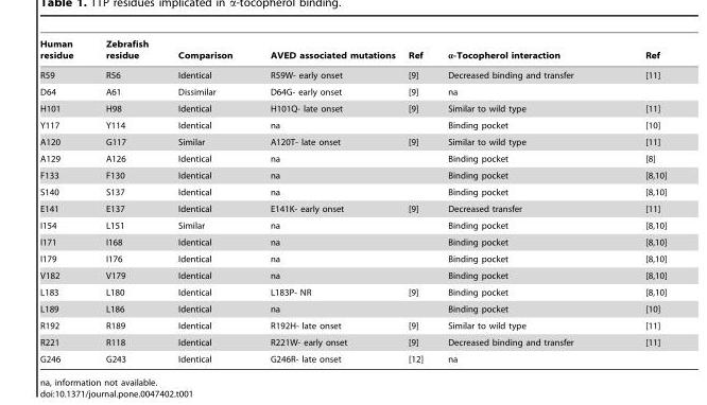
<table><thead><tr><td>Human residue</td><td>Zebrafish residue</td><td>Comparison</td><td>AVED associated mutations</td><td>Ref</td><td>α-Tocopherol interaction</td><td>Ref</td></tr></thead><tbody><tr><td>R59</td><td>R56</td><td>Identical</td><td>R59W- early onset</td><td>[9]</td><td>Decreased binding and transfer</td><td>[11]</td></tr><tr><td>D64</td><td>A61</td><td>Dissimilar</td><td>D64G- early onset</td><td>[9]</td><td>na</td><td></td></tr><tr><td>H101</td><td>H98</td><td>Identical</td><td>H101Q- late onset</td><td>[9]</td><td>Similar to wild type</td><td>[11]</td></tr><tr><td>Y117</td><td>Y114</td><td>Identical</td><td>na</td><td></td><td>Binding pocket</td><td>[10]</td></tr><tr><td>A120</td><td>G117</td><td>Similar</td><td>A120T- late onset</td><td>[9]</td><td>Similar to wild type</td><td>[11]</td></tr><tr><td>A129</td><td>A126</td><td>Identical</td><td>na</td><td></td><td>Binding pocket</td><td>[8]</td></tr><tr><td>F133</td><td>F130</td><td>Identical</td><td>na</td><td></td><td>Binding pocket</td><td>[8,10]</td></tr><tr><td>S140</td><td>S137</td><td>Identical</td><td>na</td><td></td><td>Binding pocket</td><td>[8,10]</td></tr><tr><td>E141</td><td>E137</td><td>Identical</td><td>E141K- early onset</td><td>[9]</td><td>Decreased transfer</td><td>[11]</td></tr><tr><td>I154</td><td>L151</td><td>Similar</td><td>na</td><td></td><td>Binding pocket</td><td>[8,10]</td></tr><tr><td>I171</td><td>I168</td><td>Identical</td><td>na</td><td></td><td>Binding pocket</td><td>[8,10]</td></tr><tr><td>I179</td><td>I176</td><td>Identical</td><td>na</td><td></td><td>Binding pocket</td><td>[8,10]</td></tr><tr><td>V182</td><td>V179</td><td>Identical</td><td>na</td><td></td><td>Binding pocket</td><td>[8,10]</td></tr><tr><td>L183</td><td>L180</td><td>Identical</td><td>L183P- NR</td><td>[9]</td><td>Binding pocket</td><td>[8,10]</td></tr><tr><td>L189</td><td>L186</td><td>Identical</td><td>na</td><td></td><td>Binding pocket</td><td>[10]</td></tr><tr><td>R192</td><td>R189</td><td>Identical</td><td>R192H- late onset</td><td>[9]</td><td>Similar to wild type</td><td>[11]</td></tr><tr><td>R221</td><td>R118</td><td>Identical</td><td>R221W- early onset</td><td>[9]</td><td>Decreased binding and transfer</td><td>[11]</td></tr><tr><td>G246</td><td>G243</td><td>Identical</td><td>G246R- late onset</td><td>[12]</td><td>na</td><td></td></tr></tbody></table>